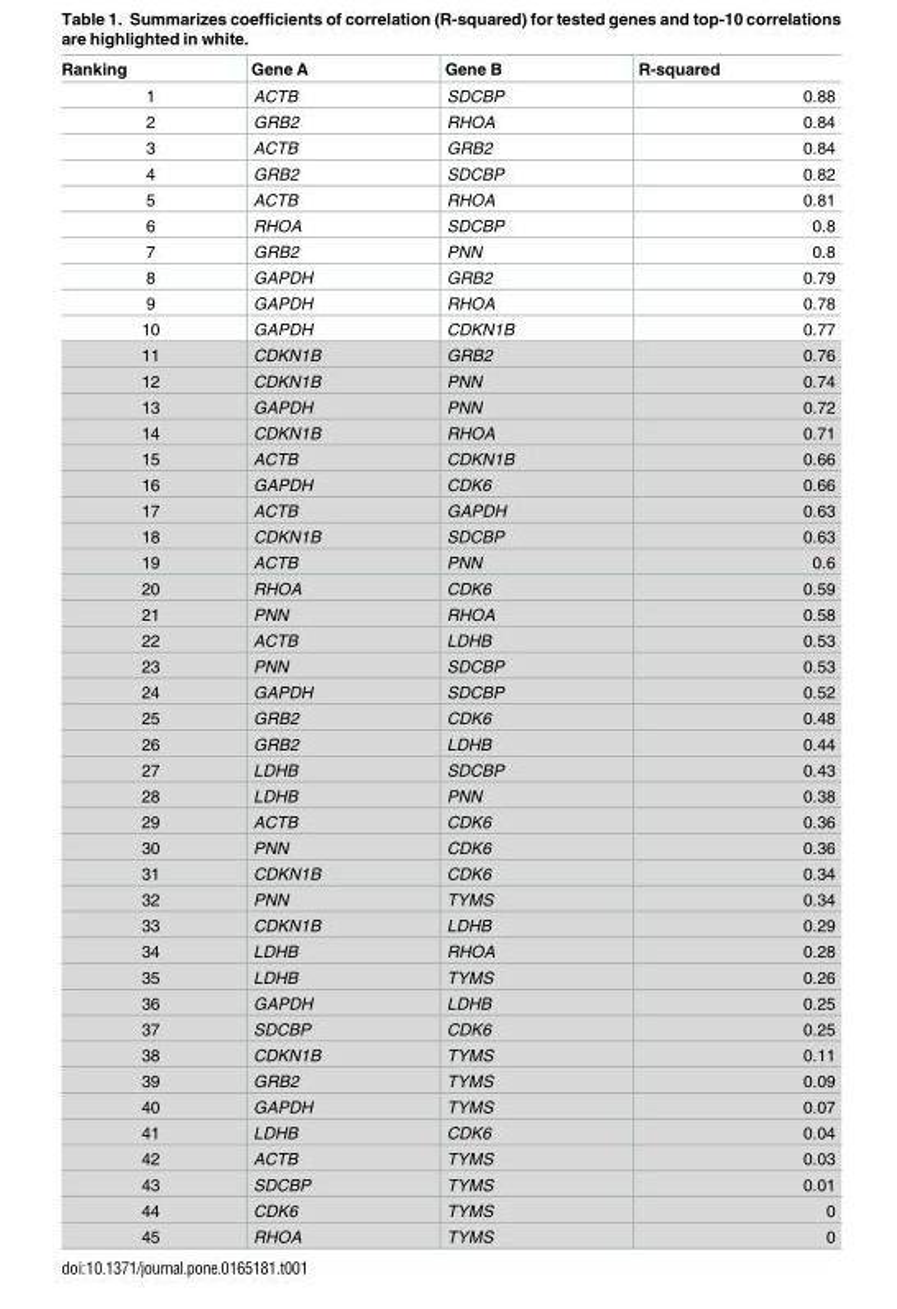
<table><thead><tr><td>Ranking</td><td>Gene A</td><td>Gene B</td><td>R-squared</td></tr></thead><tbody><tr><td>1</td><td>ACTB</td><td>SDCBP</td><td>0.88</td></tr><tr><td>2</td><td>GRB2</td><td>RHOA</td><td>0.84</td></tr><tr><td>3</td><td>ACTB</td><td>GRB2</td><td>0.84</td></tr><tr><td>4</td><td>GRB2</td><td>SDCBP</td><td>0.82</td></tr><tr><td>5</td><td>ACTB</td><td>RHOA</td><td>0.81</td></tr><tr><td>6</td><td>RHOA</td><td>SDCBP</td><td>0.8</td></tr><tr><td>7</td><td>GRB2</td><td>PNN</td><td>0.8</td></tr><tr><td>8</td><td>GAPDH</td><td>GRB2</td><td>0.79</td></tr><tr><td>9</td><td>GAPDH</td><td>RHOA</td><td>0.78</td></tr><tr><td>10</td><td>GAPDH</td><td>CDKN1B</td><td>0.77</td></tr><tr><td>11</td><td>CDKN1B</td><td>GRB2</td><td>0.76</td></tr><tr><td>12</td><td>CDKN1B</td><td>PNN</td><td>0.74</td></tr><tr><td>13</td><td>GAPDH</td><td>PNN</td><td>0.72</td></tr><tr><td>14</td><td>CDKN1B</td><td>RHOA</td><td>0.71</td></tr><tr><td>15</td><td>ACTB</td><td>CDKN1B</td><td>0.66</td></tr><tr><td>16</td><td>GAPDH</td><td>CDK6</td><td>0.66</td></tr><tr><td>17</td><td>ACTB</td><td>GAPDH</td><td>0.63</td></tr><tr><td>18</td><td>CDKN1B</td><td>SDCBP</td><td>0.63</td></tr><tr><td>19</td><td>ACTB</td><td>PNN</td><td>0.6</td></tr><tr><td>20</td><td>RHOA</td><td>CDK6</td><td>0.59</td></tr><tr><td>21</td><td>PNN</td><td>RHOA</td><td>0.58</td></tr><tr><td>22</td><td>ACTB</td><td>LDHB</td><td>0.53</td></tr><tr><td>23</td><td>PNN</td><td>SDCBP</td><td>0.53</td></tr><tr><td>24</td><td>GAPDH</td><td>SDCBP</td><td>0.52</td></tr><tr><td>25</td><td>GRB2</td><td>CDK6</td><td>0.48</td></tr><tr><td>26</td><td>GRB2</td><td>LDHB</td><td>0.44</td></tr><tr><td>27</td><td>LDHB</td><td>SDCBP</td><td>0.43</td></tr><tr><td>28</td><td>LDHB</td><td>PNN</td><td>0.38</td></tr><tr><td>29</td><td>ACTB</td><td>CDK6</td><td>0.36</td></tr><tr><td>30</td><td>PNN</td><td>CDK6</td><td>0.36</td></tr><tr><td>31</td><td>CDKN1B</td><td>CDK6</td><td>0.34</td></tr><tr><td>32</td><td>PNN</td><td>TYMS</td><td>0.34</td></tr><tr><td>33</td><td>CDKN1B</td><td>LDHB</td><td>0.29</td></tr><tr><td>34</td><td>LDHB</td><td>RHOA</td><td>0.28</td></tr><tr><td>35</td><td>LDHB</td><td>TYMS</td><td>0.26</td></tr><tr><td>36</td><td>GAPDH</td><td>LDHB</td><td>0.25</td></tr><tr><td>37</td><td>SDCBP</td><td>CDK6</td><td>0.25</td></tr><tr><td>38</td><td>CDKN1B</td><td>TYMS</td><td>0.11</td></tr><tr><td>39</td><td>GRB2</td><td>TYMS</td><td>0.09</td></tr><tr><td>40</td><td>GAPDH</td><td>TYMS</td><td>0.07</td></tr><tr><td>41</td><td>LDHB</td><td>CDK6</td><td>0.04</td></tr><tr><td>42</td><td>ACTB</td><td>TYMS</td><td>0.03</td></tr><tr><td>43</td><td>SDCBP</td><td>TYMS</td><td>0.01</td></tr><tr><td>44</td><td>CDK6</td><td>TYMS</td><td>0</td></tr><tr><td>45</td><td>RHOA</td><td>TYMS</td><td>0</td></tr></tbody></table>